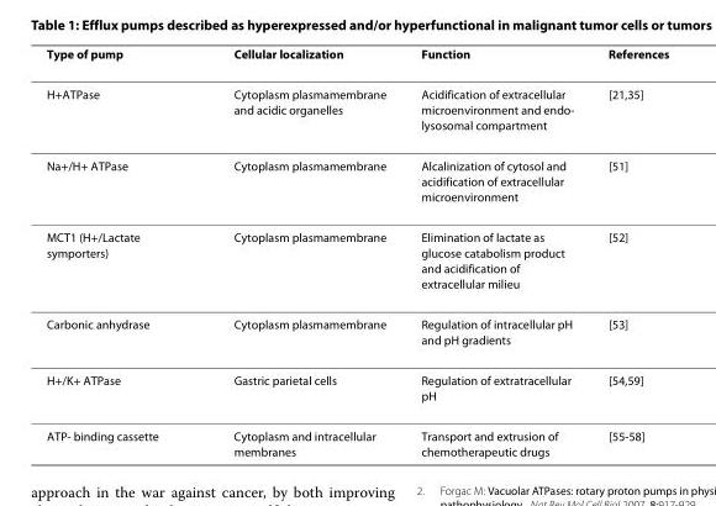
<table><thead><tr><td>Type of pump</td><td>Cellular localization</td><td>Function</td><td>References</td></tr></thead><tbody><tr><td>H+ATPase</td><td>Cytoplasm plasmamembrane and acidic organelles</td><td>Acidification of extracellular microenvironment and endo- lysosomal compartment</td><td>[21,35]</td></tr><tr><td>Na+/H+ ATPase</td><td>Cytoplasm plasmamembrane</td><td>Alcalinization of cytosol and acidification of extracellular microenvironment</td><td>[51]</td></tr><tr><td>MCT1 (H+/Lactate symporters)</td><td>Cytoplasm plasmamembrane</td><td>Elimination of lactate as glucose catabolism product and acidification of extracellular milieu</td><td>[52]</td></tr><tr><td>Carbonic anhydrase</td><td>Cytoplasm plasmamembrane</td><td>Regulation of intracellular pH and pH gradients</td><td>[53]</td></tr><tr><td>H+/K+ ATPase</td><td>Gastric parietal cells</td><td>Regulation of extratracellular pH</td><td>[54,59]</td></tr><tr><td>ATP- binding cassette</td><td>Cytoplasm and intracellular membranes</td><td>Transport and extrusion of chemotherapeutic drugs</td><td>[55-58]</td></tr></tbody></table>